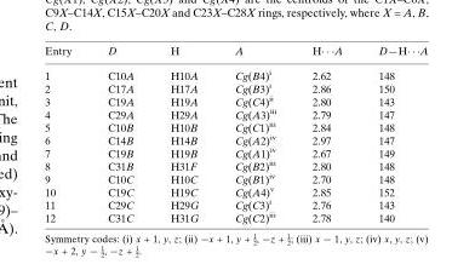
<table><tbody><tr><td>Entry</td><td>D</td><td>H</td><td>A</td><td>H· · ·A</td><td>D—H· · ·A</td></tr><tr><td>1</td><td>C10A</td><td>H10A</td><td>Cg(B4)<sup>i</sup></td><td>2.62</td><td>148</td></tr><tr><td>2</td><td>C17A</td><td>H17A</td><td>Cg(B3)<sup>i</sup></td><td>2.86</td><td>150</td></tr><tr><td>3</td><td>C19A</td><td>H19A</td><td>Cg(C4)<sup>ii</sup></td><td>2.80</td><td>143</td></tr><tr><td>4</td><td>C29A</td><td>H29A</td><td>Cg(A3)<sup>iii</sup></td><td>2.79</td><td>147</td></tr><tr><td>5</td><td>C10B</td><td>H10B</td><td>Cg(C1)<sup>iii</sup></td><td>2.84</td><td>148</td></tr><tr><td>6</td><td>C14B</td><td>H14B</td><td>Cg(A2)<sup>iv</sup></td><td>2.97</td><td>147</td></tr><tr><td>7</td><td>C19B</td><td>H19B</td><td>Cg(A1)<sup>iv</sup></td><td>2.67</td><td>149</td></tr><tr><td>8</td><td>C31B</td><td>H31F</td><td>Cg(B2)<sup>iii</sup></td><td>2.80</td><td>148</td></tr><tr><td>9</td><td>C10C</td><td>H10C</td><td>Cg(B1)<sup>iv</sup></td><td>2.70</td><td>148</td></tr><tr><td>10</td><td>C19C</td><td>H19C</td><td>Cg(A4)<sup>v</sup></td><td>2.85</td><td>152</td></tr><tr><td>11</td><td>C29C</td><td>H29G</td><td>Cg(C3)<sup>i</sup></td><td>2.76</td><td>143</td></tr><tr><td>12</td><td>C31C</td><td>H31G</td><td>Cg(C2)<sup>iii</sup></td><td>2.78</td><td>140</td></tr></tbody></table>